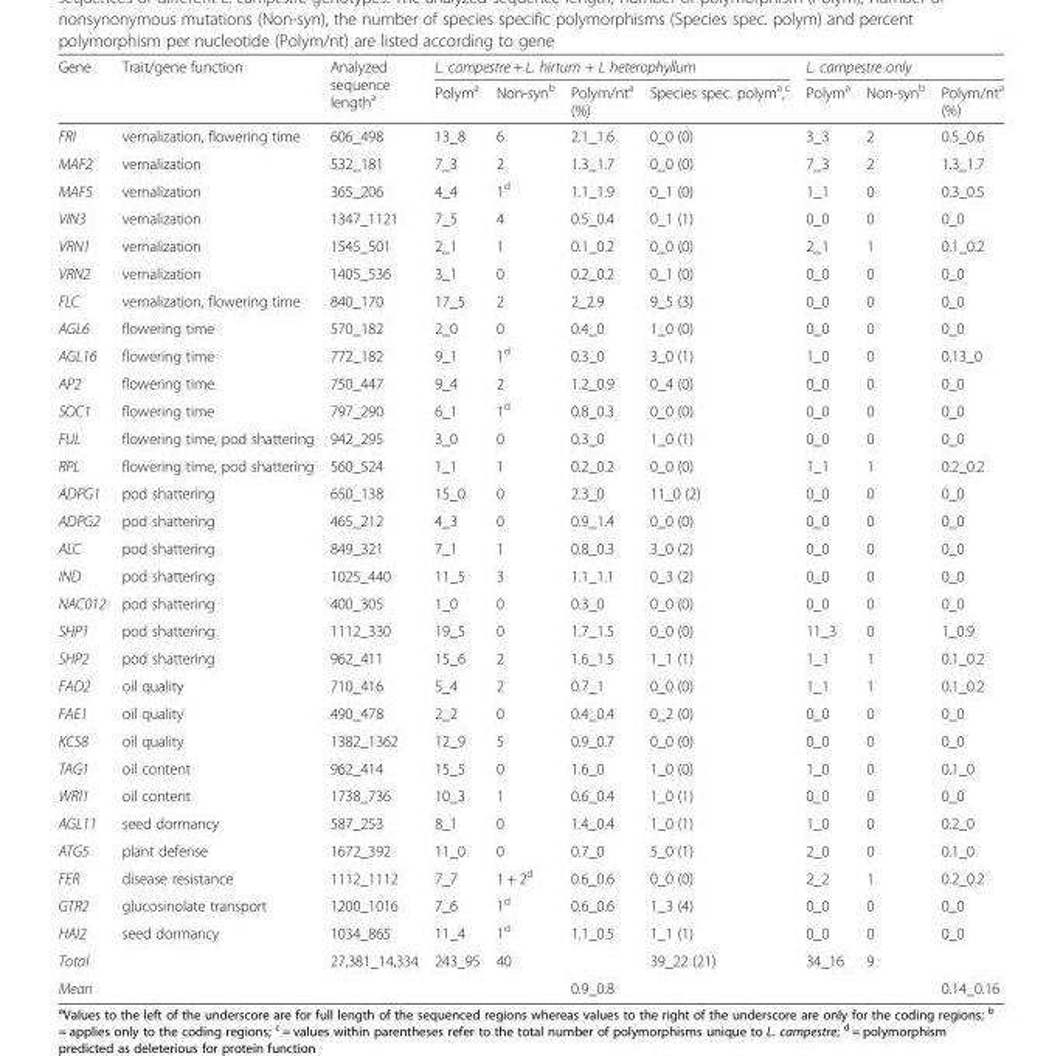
<table><thead><tr><td rowspan="2">Gene</td><td rowspan="2">Trait/gene function</td><td rowspan="2">Analyzed sequence length<sup>a</sup></td><td colspan="4">L. campestre + L. hirtum + L heterophyllum</td><td colspan="3">L. campestre only</td></tr><tr><td>Polym<sup>a</sup></td><td>Non-syn<sup>b</sup></td><td>Polym/nt<sup>a</sup> (%)</td><td>Species spec. polym<sup>a</sup>,<sup>c</sup></td><td>Polym<sup>a</sup></td><td>Non-syn<sup>b</sup></td><td>Polym/nt<sup>a</sup> (%)</td></tr></thead><tbody><tr><td>FRI</td><td>vernalization, flowering time</td><td>606_498</td><td>13_8</td><td>6</td><td>2.1_1.6</td><td>0_0 (0)</td><td>3_3</td><td>2</td><td>0.5_0.6</td></tr><tr><td>MAF2</td><td>vernalization</td><td>532_181</td><td>7_3</td><td>2</td><td>1.3_1.7</td><td>0_0 (0)</td><td>7_3</td><td>2</td><td>1.3_1.7</td></tr><tr><td>MAF5</td><td>vernalization</td><td>365_206</td><td>4_4</td><td>1<sup>d</sup></td><td>1.1_1.9</td><td>0_1 (0)</td><td>1_1</td><td>0</td><td>0.3_0.5</td></tr><tr><td>VIN3</td><td>vernalization</td><td>1347_1121</td><td>7_5</td><td>4</td><td>0.5_0.4</td><td>0_1 (1)</td><td>0_0</td><td>0</td><td>0_0</td></tr><tr><td>VRN1</td><td>vernalization</td><td>1545_501</td><td>2_1</td><td>1</td><td>0.1_0.2</td><td>0_0 (0)</td><td>2_1</td><td>1</td><td>0.1_0.2</td></tr><tr><td>VRN2</td><td>vernalization</td><td>1405_536</td><td>3_1</td><td>0</td><td>0.2_0.2</td><td>0_1 (0)</td><td>0_0</td><td>0</td><td>0_0</td></tr><tr><td>FLC</td><td>vernalization, flowering time</td><td>840_170</td><td>17_5</td><td>2</td><td>2_2.9</td><td>9_5 (3)</td><td>0_0</td><td>0</td><td>0_0</td></tr><tr><td>AGL6</td><td>flowering time</td><td>570_182</td><td>2_0</td><td>0</td><td>0.4_0</td><td>1_0 (0)</td><td>0_0</td><td>0</td><td>0_0</td></tr><tr><td>AGL16</td><td>flowering time</td><td>772_182</td><td>9_1</td><td>1<sup>d</sup></td><td>0.3_0</td><td>3_0 (1)</td><td>1_0</td><td>0</td><td>0.13_0</td></tr><tr><td>AP2</td><td>flowering time</td><td>750_447</td><td>9_4</td><td>2</td><td>1.2_0.9</td><td>0_4 (0)</td><td>0_0</td><td>0</td><td>0_0</td></tr><tr><td>SOC1</td><td>flowering time</td><td>797_290</td><td>6_1</td><td>1<sup>d</sup></td><td>0.8_0.3</td><td>0_0 (0)</td><td>0_0</td><td>0</td><td>0_0</td></tr><tr><td>FUL</td><td>flowering time, pod shattering</td><td>942_295</td><td>3_0</td><td>0</td><td>0.3_0</td><td>1_0 (1)</td><td>0_0</td><td>0</td><td>0_0</td></tr><tr><td>RPL</td><td>flowering time, pod shattering</td><td>560_524</td><td>1_1</td><td>1</td><td>0.2_0.2</td><td>0_0 (0)</td><td>1_1</td><td>1</td><td>0.2_0.2</td></tr><tr><td>ADPG1</td><td>pod shattering</td><td>650_138</td><td>15_0</td><td>0</td><td>2.3_0</td><td>11_0 (2)</td><td>0_0</td><td>0</td><td>0_0</td></tr><tr><td>ADPG2</td><td>pod shattering</td><td>465_212</td><td>4_3</td><td>0</td><td>0.9_1.4</td><td>0_0 (0)</td><td>0_0</td><td>0</td><td>0_0</td></tr><tr><td>ALC</td><td>pod shattering</td><td>849_321</td><td>7_1</td><td>1</td><td>0.8_0.3</td><td>3_0 (2)</td><td>0_0</td><td>0</td><td>0_0</td></tr><tr><td>IND</td><td>pod shattering</td><td>1025_440</td><td>11_5</td><td>3</td><td>1.1_1.1</td><td>0_3 (2)</td><td>0_0</td><td>0</td><td>0_0</td></tr><tr><td>NAC012</td><td>pod shattering</td><td>400_305</td><td>1_0</td><td>0</td><td>0.3_0</td><td>0_0 (0)</td><td>0_0</td><td>0</td><td>0_0</td></tr><tr><td>SHP1</td><td>pod shattering</td><td>1112_330</td><td>19_5</td><td>0</td><td>1.7_1.5</td><td>0_0 (0)</td><td>11_3</td><td>0</td><td>1_0.9</td></tr><tr><td>SHP2</td><td>pod shattering</td><td>962_411</td><td>15_6</td><td>2</td><td>1.6_1.5</td><td>1_1 (1)</td><td>1_1</td><td>1</td><td>0.1_0.2</td></tr><tr><td>FAD2</td><td>oil quality</td><td>710_416</td><td>5_4</td><td>2</td><td>0.7_1</td><td>0_0 (0)</td><td>1_1</td><td>1</td><td>0.1_0.2</td></tr><tr><td>FAE1</td><td>oil quality</td><td>490_478</td><td>2_2</td><td>0</td><td>0.4_0.4</td><td>0_2 (0)</td><td>0_0</td><td>0</td><td>0_0</td></tr><tr><td>KCS8</td><td>oil quality</td><td>1382_1362</td><td>12_9</td><td>5</td><td>0.9_0.7</td><td>0_0 (0)</td><td>0_0</td><td>0</td><td>0_0</td></tr><tr><td>TAG1</td><td>oil content</td><td>962_414</td><td>15_5</td><td>0</td><td>1.6_0</td><td>1_0 (0)</td><td>1_0</td><td>0</td><td>0.1_0</td></tr><tr><td>WRI1</td><td>oil content</td><td>1738_736</td><td>10_3</td><td>1</td><td>0.6_0.4</td><td>1_0 (1)</td><td>0_0</td><td>0</td><td>0_0</td></tr><tr><td>AGL11</td><td>seed dormancy</td><td>587_253</td><td>8_1</td><td>0</td><td>1.4_0.4</td><td>1_0 (1)</td><td>1_0</td><td>0</td><td>0.2_0</td></tr><tr><td>ATG5</td><td>plant defense</td><td>1672_392</td><td>11_0</td><td>0</td><td>0.7_0</td><td>5_0 (1)</td><td>2_0</td><td>0</td><td>0.1_0</td></tr><tr><td>FER</td><td>disease resistance</td><td>1112_1112</td><td>7_7</td><td>1 + 2<sup>d</sup></td><td>0.6_0.6</td><td>0_0 (0)</td><td>2_2</td><td>1</td><td>0.2_0.2</td></tr><tr><td>GTR2</td><td>glucosinolate transport</td><td>1200_1016</td><td>7_6</td><td>1<sup>d</sup></td><td>0.6_0.6</td><td>1_3 (4)</td><td>0_0</td><td>0</td><td>0_0</td></tr><tr><td>HAI2</td><td>seed dormancy</td><td>1034_865</td><td>11_4</td><td>1<sup>d</sup></td><td>1.1_0.5</td><td>1_1 (1)</td><td>0_0</td><td>0</td><td>0_0</td></tr><tr><td>Total</td><td></td><td>27,381_14,334</td><td>243_95</td><td>40</td><td></td><td>39_22 (21)</td><td>34_16</td><td>9</td><td></td></tr><tr><td>Mean</td><td></td><td></td><td></td><td></td><td>0.9_0.8</td><td></td><td></td><td></td><td>0.14_0.16</td></tr></tbody></table>